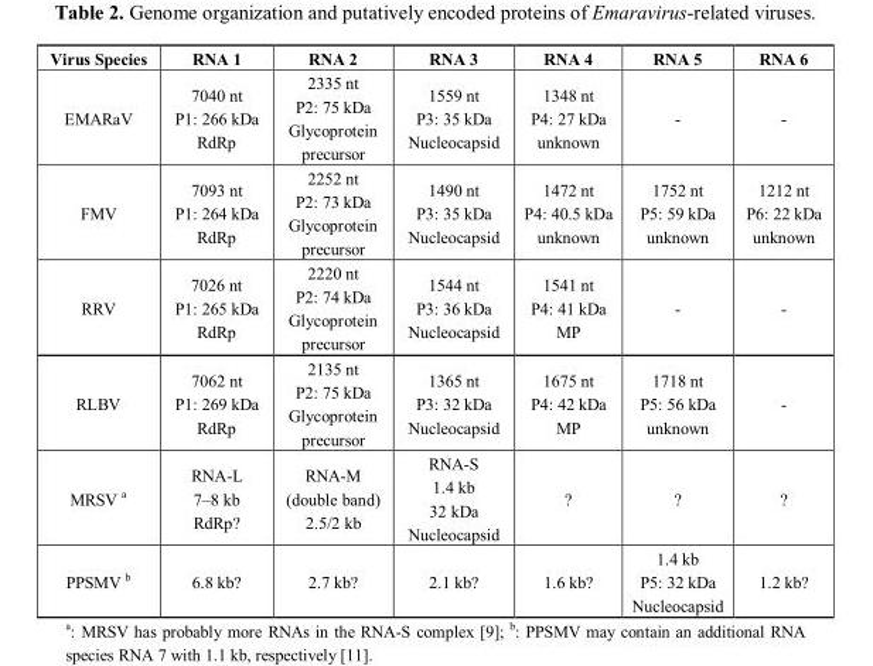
<table><thead><tr><td>Virus Species</td><td>RNA 1</td><td>RNA 2</td><td>RNA 3</td><td>RNA 4</td><td>RNA 5</td><td>RNA 6</td></tr></thead><tbody><tr><td>EMARaV</td><td>7040 nt P1: 266 kDa RdRp</td><td>2335 nt P2: 75 kDa Glycoprotein precursor</td><td>1559 nt P3: 35 kDa Nucleocapsid</td><td>1348 nt P4: 27 kDa unknown</td><td>-</td><td>-</td></tr><tr><td>FMV</td><td>7093 nt P1: 264 kDa RdRp</td><td>2252 nt P2: 73 kDa Glycoprotein precursor</td><td>1490 nt P3: 35 kDa Nucleocapsid</td><td>1472 nt P4: 40.5 kDa unknown</td><td>1752 nt P5: 59 kDa unknown</td><td>1212 nt P6: 22 kDa unknown</td></tr><tr><td>RRV</td><td>7026 nt P1: 265 kDa RdRp</td><td>2220 nt P2: 74 kDa Glycoprotein precursor</td><td>1544 nt P3: 36 kDa Nucleocapsid</td><td>1541 nt P4: 41 kDa MP</td><td>-</td><td>-</td></tr><tr><td>RLBV</td><td>7062 nt P1: 269 kDa RdRp</td><td>2135 nt P2: 75 kDa Glycoprotein precursor</td><td>1365 nt P3: 32 kDa Nucleocapsid</td><td>1675 nt P4: 42 kDa MP</td><td>1718 nt P5: 56 kDa unknown</td><td>-</td></tr><tr><td>MRSV <sup>a</sup></td><td>RNA-L 7–8 kb RdRp?</td><td>RNA-M (double band) 2.5/2 kb</td><td>RNA-S 1.4 kb 32 kDa Nucleocapsid</td><td>?</td><td>?</td><td>?</td></tr><tr><td>PPSMV <sup>b</sup></td><td>6.8 kb?</td><td>2.7 kb?</td><td>2.1 kb?</td><td>1.6 kb?</td><td>1.4 kb P5: 32 kDa Nucleocapsid</td><td>1.2 kb?</td></tr></tbody></table>